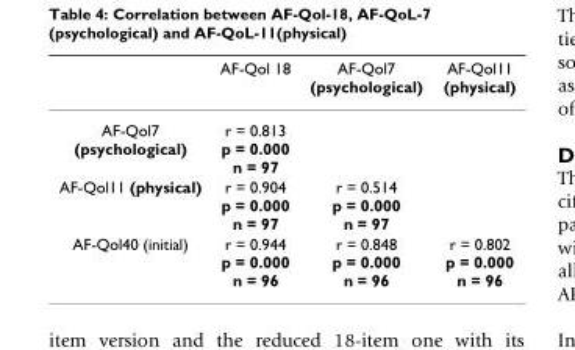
<table><thead><tr><td></td><td>AF-Qol 18</td><td>AF-Qol7 (psychological)</td><td>AF-Qol11 (physical)</td></tr></thead><tbody><tr><td>AF-Qol7 (psychological)</td><td>r = 0.813 p = 0.000 n = 97</td><td></td><td></td></tr><tr><td>AF-Qol11 (physical)</td><td>r = 0.904 p = 0.000 n = 97</td><td>r = 0.514 p = 0.000 n = 97</td><td></td></tr><tr><td>AF-Qol40 (initial)</td><td>r = 0.944 p = 0.000 n = 96</td><td>r = 0.848 p = 0.000 n = 96</td><td>r = 0.802 p = 0.000 n = 96</td></tr></tbody></table>